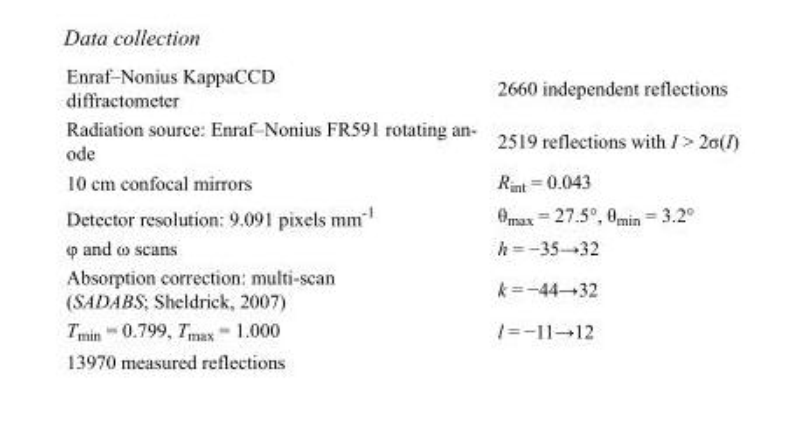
<table><tbody><tr><td>Enraf–Nonius KappaCCD diffractometer</td><td>2660 independent reflections</td></tr><tr><td>Radiation source: Enraf–Nonius FR591 rotating an- ode</td><td>2519 reflections with I &gt; 2σ(I)</td></tr><tr><td>10 cm confocal mirrors</td><td>R<sub>int</sub> = 0.043</td></tr><tr><td>Detector resolution: 9.091 pixels mm<sup>-1</sup></td><td>θ<sub>max</sub> = 27.5°, θ<sub>min</sub> = 3.2°</td></tr><tr><td>φ and ω scans</td><td>h = −35→32</td></tr><tr><td>Absorption correction: multi-scan (SADABS; Sheldrick, 2007)</td><td>k = −44→32</td></tr><tr><td>T<sub>min</sub> = 0.799, T<sub>max</sub> = 1.000</td><td>l = −11→12</td></tr><tr><td>13970 measured reflections</td><td></td></tr></tbody></table>